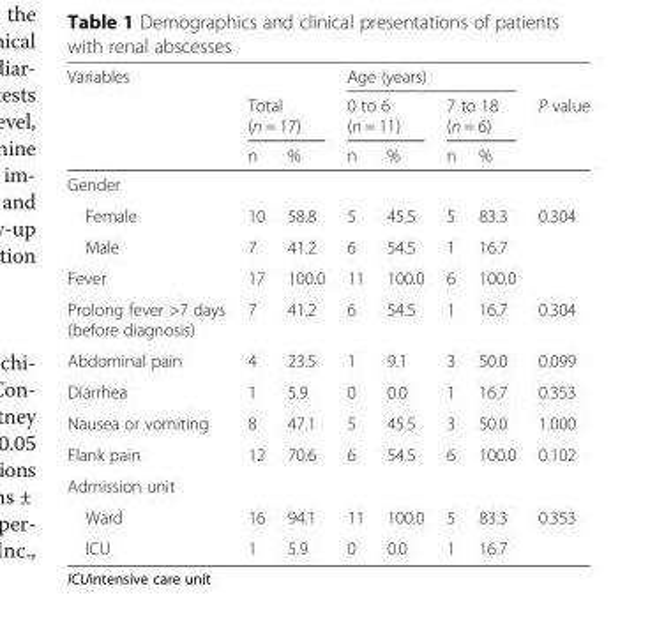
<table><thead><tr><td rowspan="3">Variables</td><td></td><td></td><td colspan="4">Age (years)</td><td rowspan="3">P value</td></tr><tr><td colspan="2">Total (n = 17)</td><td colspan="2">0 to 6 (n = 11)</td><td colspan="2">7 to 18 (n = 6)</td></tr><tr><td>n</td><td>%</td><td>n</td><td>%</td><td>n</td><td>%</td></tr></thead><tbody><tr><td colspan="8">Gender</td></tr><tr><td>Female</td><td>10</td><td>58.8</td><td>5</td><td>45.5</td><td>5</td><td>83.3</td><td>0.304</td></tr><tr><td>Male</td><td>7</td><td>41.2</td><td>6</td><td>54.5</td><td>1</td><td>16.7</td><td></td></tr><tr><td>Fever</td><td>17</td><td>100.0</td><td>11</td><td>100.0</td><td>6</td><td>100.0</td><td></td></tr><tr><td>Prolong fever &gt;7 days (before diagnosis)</td><td>7</td><td>41.2</td><td>6</td><td>54.5</td><td>1</td><td>16.7</td><td>0.304</td></tr><tr><td>Abdominal pain</td><td>4</td><td>23.5</td><td>1</td><td>9.1</td><td>3</td><td>50.0</td><td>0.099</td></tr><tr><td>Diarrhea</td><td>1</td><td>5.9</td><td>0</td><td>0.0</td><td>1</td><td>16.7</td><td>0.353</td></tr><tr><td>Nausea or vomiting</td><td>8</td><td>47.1</td><td>5</td><td>45.5</td><td>3</td><td>50.0</td><td>1.000</td></tr><tr><td>Flank pain</td><td>12</td><td>70.6</td><td>6</td><td>54.5</td><td>6</td><td>100.0</td><td>0.102</td></tr><tr><td colspan="8">Admission unit</td></tr><tr><td>Ward</td><td>16</td><td>94.1</td><td>11</td><td>100.0</td><td>5</td><td>83.3</td><td>0.353</td></tr><tr><td>ICU</td><td>1</td><td>5.9</td><td>0</td><td>0.0</td><td>1</td><td>16.7</td><td></td></tr></tbody></table>